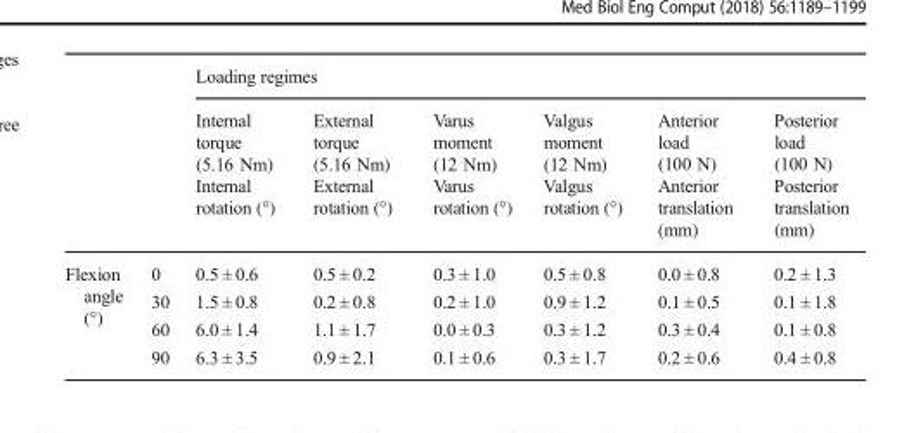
<table><thead><tr><td rowspan="3"></td><td rowspan="3"></td><td colspan="6">Loading regimes</td></tr><tr><td rowspan="2">Internal torque (5.16 Nm) Internal rotation (°)</td><td rowspan="2">External torque (5.16 Nm) External rotation (°)</td><td rowspan="2">Varus moment (12 Nm) Varus rotation (°)</td><td rowspan="2">Valgus moment (12 Nm) Valgus rotation (°)</td><td rowspan="2">Anterior load (100 N) Anterior translation (mm)</td><td rowspan="2">Posterior load (100 N) Posterior translation (mm)</td></tr><tr></tr></thead><tbody><tr><td rowspan="4">Flexion angle (°)</td><td>0</td><td>0.5 ± 0.6</td><td>0.5 ± 0.2</td><td>0.3 ± 1.0</td><td>0.5 ± 0.8</td><td>0.0 ± 0.8</td><td>0.2 ± 1.3</td></tr><tr><td>30</td><td>1.5 ± 0.8</td><td>0.2 ± 0.8</td><td>0.2 ± 1.0</td><td>0.9 ± 1.2</td><td>0.1 ± 0.5</td><td>0.1 ± 1.8</td></tr><tr><td>60</td><td>6.0 ± 1.4</td><td>1.1 ± 1.7</td><td>0.0 ± 0.3</td><td>0.3 ± 1.2</td><td>0.3 ± 0.4</td><td>0.1 ± 0.8</td></tr><tr><td>90</td><td>6.3 ± 3.5</td><td>0.9 ± 2.1</td><td>0.1 ± 0.6</td><td>0.3 ± 1.7</td><td>0.2 ± 0.6</td><td>0.4 ± 0.8</td></tr></tbody></table>